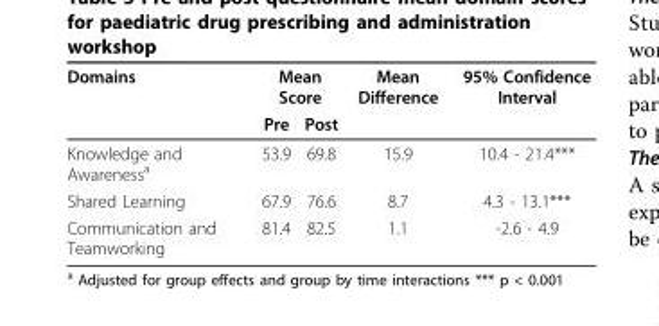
<table><thead><tr><td rowspan="2">Domains</td><td colspan="2">Mean Score</td><td rowspan="2">Mean Difference</td><td rowspan="2">95% Confidence Interval</td></tr><tr><td>Pre</td><td>Post</td></tr></thead><tbody><tr><td>Knowledge and Awareness<sup>a</sup></td><td>53.9</td><td>69.8</td><td>15.9</td><td>10.4 - 21.4***</td></tr><tr><td>Shared Learning</td><td>67.9</td><td>76.6</td><td>8.7</td><td>4.3 - 13.1***</td></tr><tr><td>Communication and Teamworking</td><td>81.4</td><td>82.5</td><td>1.1</td><td>-2.6 - 4.9</td></tr></tbody></table>